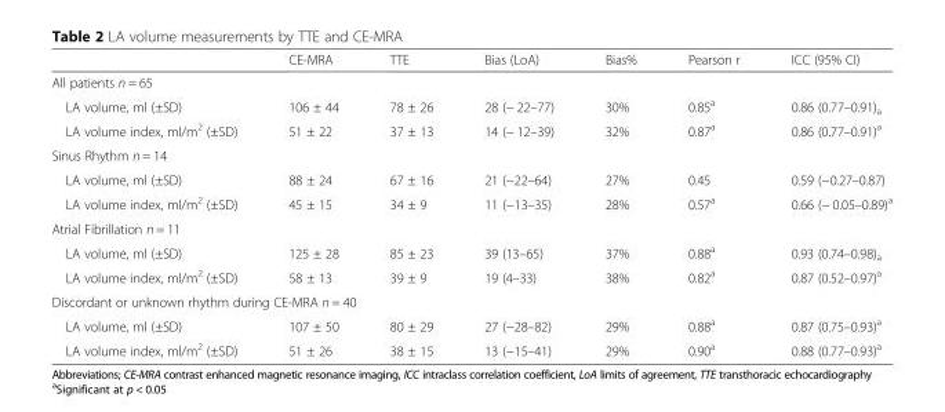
<table><thead><tr><td></td><td>CE-MRA</td><td>TTE</td><td>Bias (LoA)</td><td>Bias%</td><td>Pearson r</td><td>ICC (95% CI)</td></tr></thead><tbody><tr><td colspan="7">All patients n = 65</td></tr><tr><td>LA volume, ml (±SD)</td><td>106 ± 44</td><td>78 ± 26</td><td>28 (− 22–77)</td><td>30%</td><td>0.85<sup>a</sup></td><td>0.86 (0.77–0.91)<sub>a</sub></td></tr><tr><td>LA volume index, ml/m<sup>2</sup> (±SD)</td><td>51 ± 22</td><td>37 ± 13</td><td>14 (− 12–39)</td><td>32%</td><td>0.87<sup>a</sup></td><td>0.86 (0.77–0.91)<sup>a</sup></td></tr><tr><td colspan="7">Sinus Rhythm n = 14</td></tr><tr><td>LA volume, ml (±SD)</td><td>88 ± 24</td><td>67 ± 16</td><td>21 (−22–64)</td><td>27%</td><td>0.45</td><td>0.59 (−0.27–0.87)</td></tr><tr><td>LA volume index, ml/m<sup>2</sup> (±SD)</td><td>45 ± 15</td><td>34 ± 9</td><td>11 (−13–35)</td><td>28%</td><td>0.57<sup>a</sup></td><td>0.66 (− 0.05–0.89)<sup>a</sup></td></tr><tr><td colspan="7">Atrial Fibrillation n = 11</td></tr><tr><td>LA volume, ml (±SD)</td><td>125 ± 28</td><td>85 ± 23</td><td>39 (13–65)</td><td>37%</td><td>0.88<sup>a</sup></td><td>0.93 (0.74–0.98)<sub>a</sub></td></tr><tr><td>LA volume index, ml/m<sup>2</sup> (±SD)</td><td>58 ± 13</td><td>39 ± 9</td><td>19 (4–33)</td><td>38%</td><td>0.82<sup>a</sup></td><td>0.87 (0.52–0.97)<sup>a</sup></td></tr><tr><td colspan="7">Discordant or unknown rhythm during CE-MRA n = 40</td></tr><tr><td>LA volume, ml (±SD)</td><td>107 ± 50</td><td>80 ± 29</td><td>27 (−28–82)</td><td>29%</td><td>0.88<sup>a</sup></td><td>0.87 (0.75–0.93)<sup>a</sup></td></tr><tr><td>LA volume index, ml/m<sup>2</sup> (±SD)</td><td>51 ± 26</td><td>38 ± 15</td><td>13 (−15–41)</td><td>29%</td><td>0.90<sup>a</sup></td><td>0.88 (0.77–0.93)<sup>a</sup></td></tr></tbody></table>